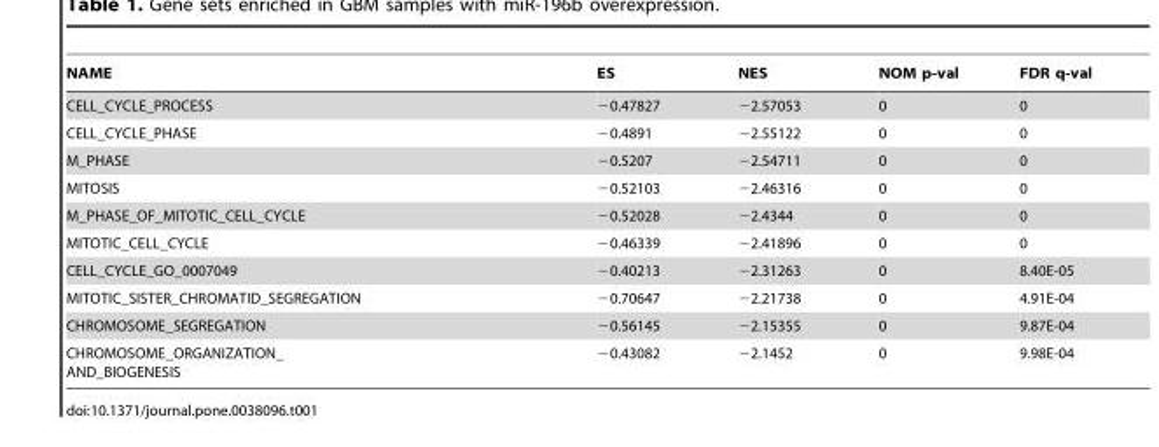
<table><thead><tr><td>NAME</td><td>ES</td><td>NES</td><td>NOM p-val</td><td>FDR q-val</td></tr></thead><tbody><tr><td>CELL_CYCLE_PROCESS</td><td>−0.47827</td><td>−2.57053</td><td>0</td><td>0</td></tr><tr><td>CELL_CYCLE_PHASE</td><td>−0.4891</td><td>−2.55122</td><td>0</td><td>0</td></tr><tr><td>M_PHASE</td><td>−0.5207</td><td>−2.54711</td><td>0</td><td>0</td></tr><tr><td>MITOSIS</td><td>−0.52103</td><td>−2.46316</td><td>0</td><td>0</td></tr><tr><td>M_PHASE_OF_MITOTIC_CELL_CYCLE</td><td>−0.52028</td><td>−2.4344</td><td>0</td><td>0</td></tr><tr><td>MITOTIC_CELL_CYCLE</td><td>−0.46339</td><td>−2.41896</td><td>0</td><td>0</td></tr><tr><td>CELL_CYCLE_GO_0007049</td><td>−0.40213</td><td>−2.31263</td><td>0</td><td>8.40E-05</td></tr><tr><td>MITOTIC_SISTER_CHROMATID_SEGREGATION</td><td>−0.70647</td><td>−2.21738</td><td>0</td><td>4.91E-04</td></tr><tr><td>CHROMOSOME_SEGREGATION</td><td>−0.56145</td><td>−2.15355</td><td>0</td><td>9.87E-04</td></tr><tr><td>CHROMOSOME_ORGANIZATION_ AND_BIOGENESIS</td><td>−0.43082</td><td>−2.1452</td><td>0</td><td>9.98E-04</td></tr></tbody></table>